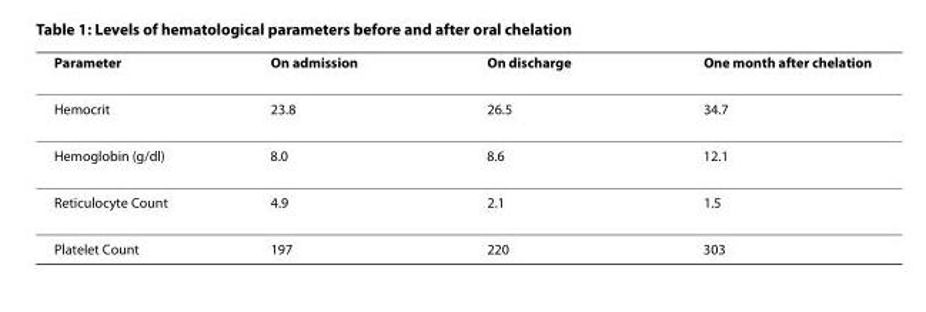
<table><thead><tr><td>Parameter</td><td>On admission</td><td>On discharge</td><td>One month after chelation</td></tr></thead><tbody><tr><td>Hemocrit</td><td>23.8</td><td>26.5</td><td>34.7</td></tr><tr><td>Hemoglobin (g/dl)</td><td>8.0</td><td>8.6</td><td>12.1</td></tr><tr><td>Reticulocyte Count</td><td>4.9</td><td>2.1</td><td>1.5</td></tr><tr><td>Platelet Count</td><td>197</td><td>220</td><td>303</td></tr></tbody></table>